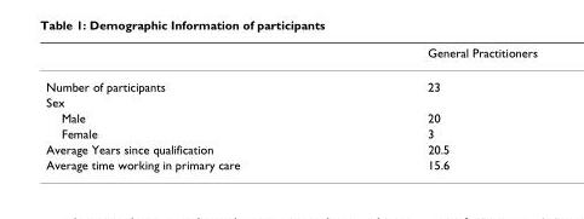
<table><thead><tr><td></td><td>General Practitioners</td></tr></thead><tbody><tr><td>Number of participants</td><td>23</td></tr><tr><td colspan="2">Sex</td></tr><tr><td>Male</td><td>20</td></tr><tr><td>Female</td><td>3</td></tr><tr><td>Average Years since qualification</td><td>20.5</td></tr><tr><td>Average time working in primary care</td><td>15.6</td></tr></tbody></table>